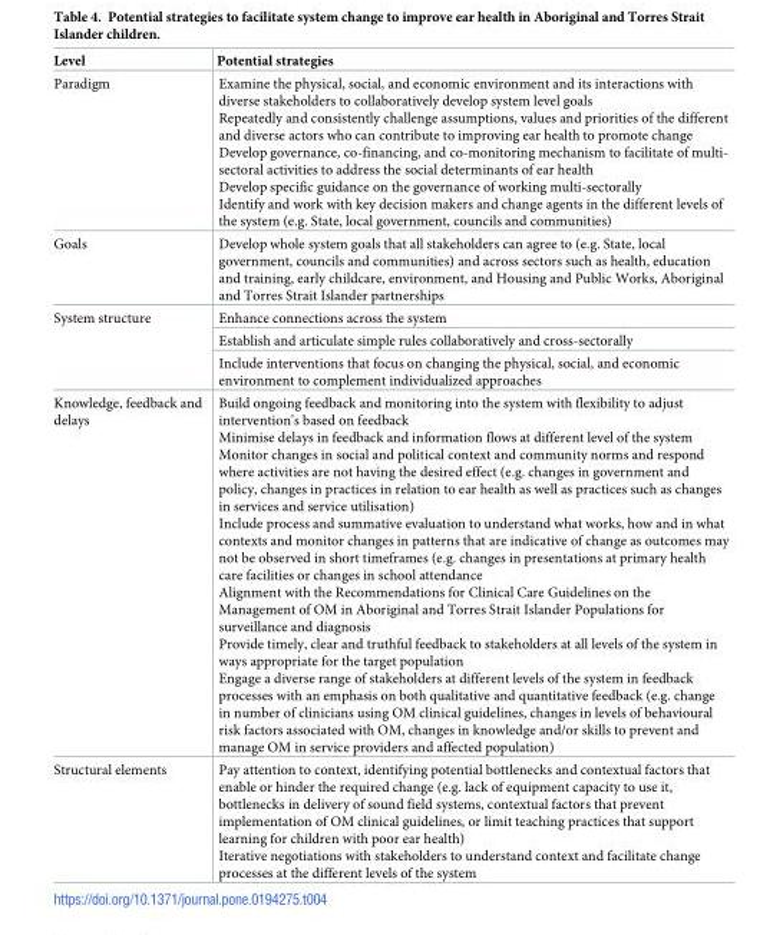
<table><thead><tr><td>Level</td><td>Potential strategies</td></tr></thead><tbody><tr><td>Paradigm</td><td>Examine the physical, social, and economic environment and its interactions with diverse stakeholders to collaboratively develop system level goals Repeatedly and consistently challenge assumptions, values and priorities of the different and diverse actors who can contribute to improving ear health to promote change Develop governance, co-financing, and co-monitoring mechanism to facilitate of multi- sectoral activities to address the social determinants of ear health Develop specific guidance on the governance of working multi-sectorally Identify and work with key decision makers and change agents in the different levels of the system (e.g. State, local government, councils and communities)</td></tr><tr><td>Goals</td><td>Develop whole system goals that all stakeholders can agree to (e.g. State, local government, councils and communities) and across sectors such as health, education and training, early childcare, environment, and Housing and Public Works, Aboriginal and Torres Strait Islander partnerships</td></tr><tr><td rowspan="3">System structure</td><td>Enhance connections across the system</td></tr><tr><td>Establish and articulate simple rules collaboratively and cross-sectorally</td></tr><tr><td>Include interventions that focus on changing the physical, social, and economic environment to complement individualized approaches</td></tr><tr><td>Knowledge, feedback and delays</td><td>Build ongoing feedback and monitoring into the system with flexibility to adjust intervention’s based on feedback Minimise delays in feedback and information flows at different level of the system Monitor changes in social and political context and community norms and respond where activities are not having the desired effect (e.g. changes in government and policy, changes in practices in relation to ear health as well as practices such as changes in services and service utilisation) Include process and summative evaluation to understand what works, how and in what contexts and monitor changes in patterns that are indicative of change as outcomes may not be observed in short timeframes (e.g. changes in presentations at primary health care facilities or changes in school attendance Alignment with the Recommendations for Clinical Care Guidelines on the Management of OM in Aboriginal and Torres Strait Islander Populations for surveillance and diagnosis Provide timely, clear and truthful feedback to stakeholders at all levels of the system in ways appropriate for the target population Engage a diverse range of stakeholders at different levels of the system in feedback processes with an emphasis on both qualitative and quantitative feedback (e.g. change in number of clinicians using OM clinical guidelines, changes in levels of behavioural risk factors associated with OM, changes in knowledge and/or skills to prevent and manage OM in service providers and affected population)</td></tr><tr><td>Structural elements</td><td>Pay attention to context, identifying potential bottlenecks and contextual factors that enable or hinder the required change (e.g. lack of equipment capacity to use it, bottlenecks in delivery of sound field systems, contextual factors that prevent implementation of OM clinical guidelines, or limit teaching practices that support learning for children with poor ear health) Iterative negotiations with stakeholders to understand context and facilitate change processes at the different levels of the system</td></tr></tbody></table>